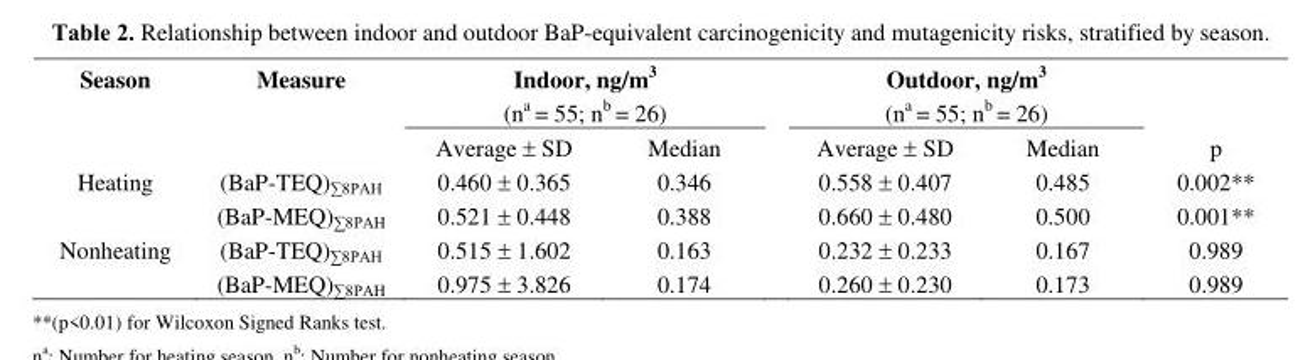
<table><thead><tr><td rowspan="2">Season</td><td rowspan="2">Measure</td><td colspan="2">Indoor, ng/m<sup>3</sup> (n<sup>a</sup> = 55; n<sup>b</sup> = 26)</td><td colspan="2">Outdoor, ng/m<sup>3</sup> (n<sup>a</sup> = 55; n<sup>b</sup> = 26)</td><td rowspan="2">p</td></tr><tr><td>Average ± SD</td><td>Median</td><td>Average ± SD</td><td>Median</td></tr></thead><tbody><tr><td rowspan="2">Heating</td><td>(BaP-TEQ)<sub>∑8PAH</sub></td><td>0.460 ± 0.365</td><td>0.346</td><td>0.558 ± 0.407</td><td>0.485</td><td>0.002**</td></tr><tr><td>(BaP-MEQ)<sub>∑8PAH</sub></td><td>0.521 ± 0.448</td><td>0.388</td><td>0.660 ± 0.480</td><td>0.500</td><td>0.001**</td></tr><tr><td rowspan="2">Nonheating</td><td>(BaP-TEQ)<sub>∑8PAH</sub></td><td>0.515 ± 1.602</td><td>0.163</td><td>0.232 ± 0.233</td><td>0.167</td><td>0.989</td></tr><tr><td>(BaP-MEQ)<sub>∑8PAH</sub></td><td>0.975 ± 3.826</td><td>0.174</td><td>0.260 ± 0.230</td><td>0.173</td><td>0.989</td></tr></tbody></table>